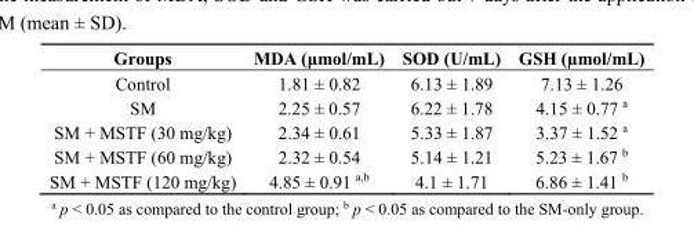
<table><thead><tr><td>Groups</td><td>MDA (μmol/mL)</td><td>SOD (U/mL)</td><td>GSH (µmol/mL)</td></tr></thead><tbody><tr><td>Control</td><td>1.81 ± 0.82</td><td>6.13 ± 1.89</td><td>7.13 ± 1.26</td></tr><tr><td>SM</td><td>2.25 ± 0.57</td><td>6.22 ± 1.78</td><td>4.15 ± 0.77 <sup>a</sup></td></tr><tr><td>SM + MSTF (30 mg/kg)</td><td>2.34 ± 0.61</td><td>5.33 ± 1.87</td><td>3.37 ± 1.52 <sup>a</sup></td></tr><tr><td>SM + MSTF (60 mg/kg)</td><td>2.32 ± 0.54</td><td>5.14 ± 1.21</td><td>5.23 ± 1.67 <sup>b</sup></td></tr><tr><td>SM + MSTF (120 mg/kg)</td><td>4.85 ± 0.91 <sup>a,b</sup></td><td>4.1 ± 1.71</td><td>6.86 ± 1.41 <sup>b</sup></td></tr></tbody></table>